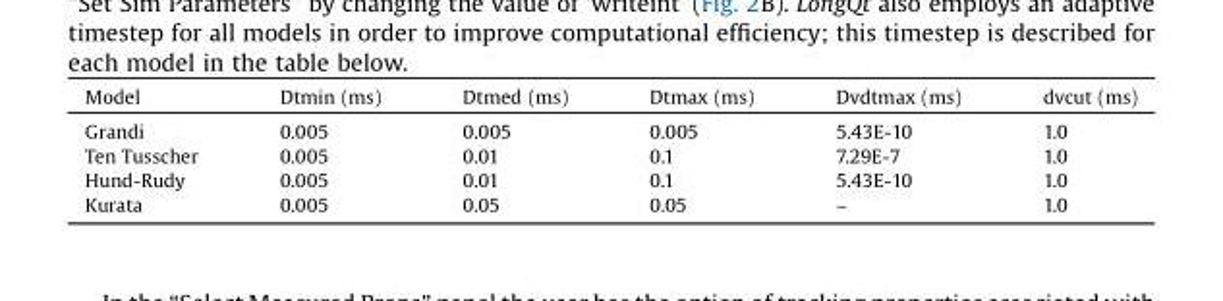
<table><thead><tr><td>Model</td><td>Dtmin (ms)</td><td>Dtmed (ms)</td><td>Dtmax (ms)</td><td>Dvdtmax (ms)</td><td>dvcut (ms)</td></tr></thead><tbody><tr><td>Grandi</td><td>0.005</td><td>0.005</td><td>0.005</td><td>5.43E-10</td><td>1.0</td></tr><tr><td>Ten Tusscher</td><td>0.005</td><td>0.01</td><td>0.1</td><td>7.29E-7</td><td>1.0</td></tr><tr><td>Hund-Rudy</td><td>0.005</td><td>0.01</td><td>0.1</td><td>5.43E-10</td><td>1.0</td></tr><tr><td>Kurata</td><td>0.005</td><td>0.05</td><td>0.05</td><td>–</td><td>1.0</td></tr></tbody></table>